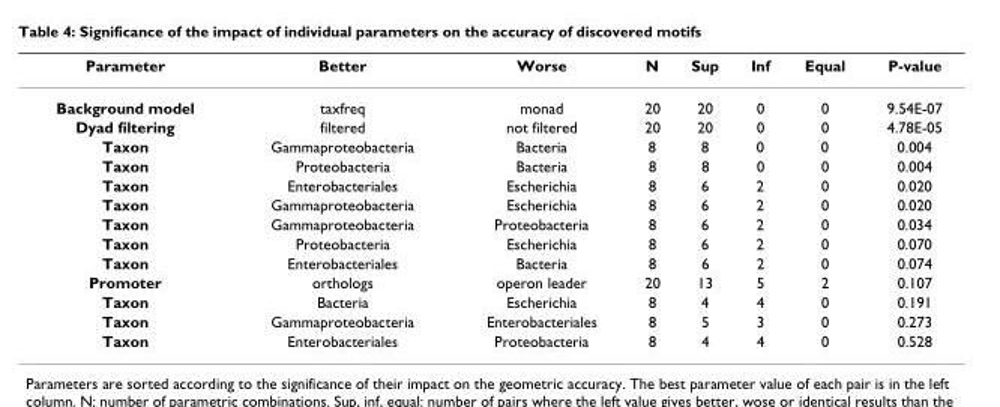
<table><thead><tr><td>Parameter</td><td>Better</td><td>Worse</td><td>N</td><td>Sup</td><td>Inf</td><td>Equal</td><td>P-value</td></tr></thead><tbody><tr><td>Background model</td><td>taxfreq</td><td>monad</td><td>20</td><td>20</td><td>0</td><td>0</td><td>9.54E-07</td></tr><tr><td>Dyad filtering</td><td>filtered</td><td>not filtered</td><td>20</td><td>20</td><td>0</td><td>0</td><td>4.78E-05</td></tr><tr><td>Taxon</td><td>Gammaproteobacteria</td><td>Bacteria</td><td>8</td><td>8</td><td>0</td><td>0</td><td>0.004</td></tr><tr><td>Taxon</td><td>Proteobacteria</td><td>Bacteria</td><td>8</td><td>8</td><td>0</td><td>0</td><td>0.004</td></tr><tr><td>Taxon</td><td>Enterobacteriales</td><td>Escherichia</td><td>8</td><td>6</td><td>2</td><td>0</td><td>0.020</td></tr><tr><td>Taxon</td><td>Gammaproteobacteria</td><td>Escherichia</td><td>8</td><td>6</td><td>2</td><td>0</td><td>0.020</td></tr><tr><td>Taxon</td><td>Gammaproteobacteria</td><td>Proteobacteria</td><td>8</td><td>6</td><td>2</td><td>0</td><td>0.034</td></tr><tr><td>Taxon</td><td>Proteobacteria</td><td>Escherichia</td><td>8</td><td>6</td><td>2</td><td>0</td><td>0.070</td></tr><tr><td>Taxon</td><td>Enterobacteriales</td><td>Bacteria</td><td>8</td><td>6</td><td>2</td><td>0</td><td>0.074</td></tr><tr><td>Promoter</td><td>orthologs</td><td>operon leader</td><td>20</td><td>13</td><td>5</td><td>2</td><td>0.107</td></tr><tr><td>Taxon</td><td>Bacteria</td><td>Escherichia</td><td>8</td><td>4</td><td>4</td><td>0</td><td>0.191</td></tr><tr><td>Taxon</td><td>Gammaproteobacteria</td><td>Enterobacteriales</td><td>8</td><td>5</td><td>3</td><td>0</td><td>0.273</td></tr><tr><td>Taxon</td><td>Enterobacteriales</td><td>Proteobacteria</td><td>8</td><td>4</td><td>4</td><td>0</td><td>0.528</td></tr></tbody></table>